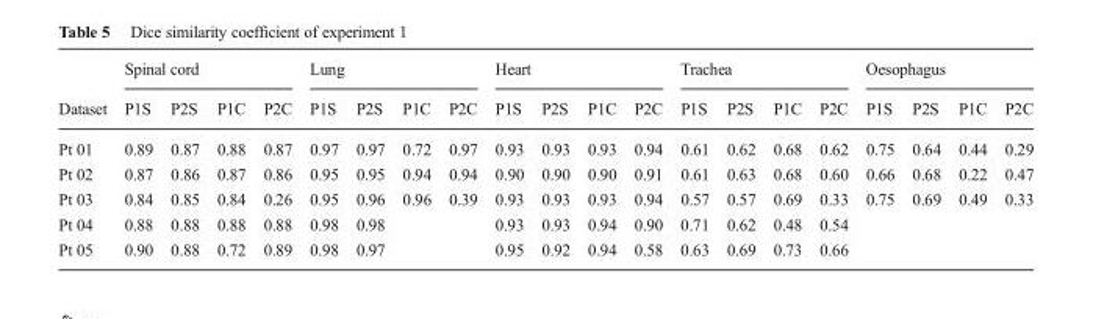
<table><thead><tr><td rowspan="2">Dataset</td><td colspan="4">Spinal cord</td><td colspan="4">Lung</td><td colspan="4">Heart</td><td colspan="4">Trachea</td><td colspan="4">Oesophagus</td></tr><tr><td>P1S</td><td>P2S</td><td>P1C</td><td>P2C</td><td>P1S</td><td>P2S</td><td>P1C</td><td>P2C</td><td>P1S</td><td>P2S</td><td>P1C</td><td>P2C</td><td>P1S</td><td>P2S</td><td>P1C</td><td>P2C</td><td>P1S</td><td>P2S</td><td>P1C</td><td>P2C</td></tr></thead><tbody><tr><td>Pt 01</td><td>0.89</td><td>0.87</td><td>0.88</td><td>0.87</td><td>0.97</td><td>0.97</td><td>0.72</td><td>0.97</td><td>0.93</td><td>0.93</td><td>0.93</td><td>0.94</td><td>0.61</td><td>0.62</td><td>0.68</td><td>0.62</td><td>0.75</td><td>0.64</td><td>0.44</td><td>0.29</td></tr><tr><td>Pt 02</td><td>0.87</td><td>0.86</td><td>0.87</td><td>0.86</td><td>0.95</td><td>0.95</td><td>0.94</td><td>0.94</td><td>0.90</td><td>0.90</td><td>0.90</td><td>0.91</td><td>0.61</td><td>0.63</td><td>0.68</td><td>0.60</td><td>0.66</td><td>0.68</td><td>0.22</td><td>0.47</td></tr><tr><td>Pt 03</td><td>0.84</td><td>0.85</td><td>0.84</td><td>0.26</td><td>0.95</td><td>0.96</td><td>0.96</td><td>0.39</td><td>0.93</td><td>0.93</td><td>0.93</td><td>0.94</td><td>0.57</td><td>0.57</td><td>0.69</td><td>0.33</td><td>0.75</td><td>0.69</td><td>0.49</td><td>0.33</td></tr><tr><td>Pt 04</td><td>0.88</td><td>0.88</td><td>0.88</td><td>0.88</td><td>0.98</td><td>0.98</td><td></td><td></td><td>0.93</td><td>0.93</td><td>0.94</td><td>0.90</td><td>0.71</td><td>0.62</td><td>0.48</td><td>0.54</td><td></td><td></td><td></td><td></td></tr><tr><td>Pt 05</td><td>0.90</td><td>0.88</td><td>0.72</td><td>0.89</td><td>0.98</td><td>0.97</td><td></td><td></td><td>0.95</td><td>0.92</td><td>0.94</td><td>0.58</td><td>0.63</td><td>0.69</td><td>0.73</td><td>0.66</td><td></td><td></td><td></td><td></td></tr></tbody></table>